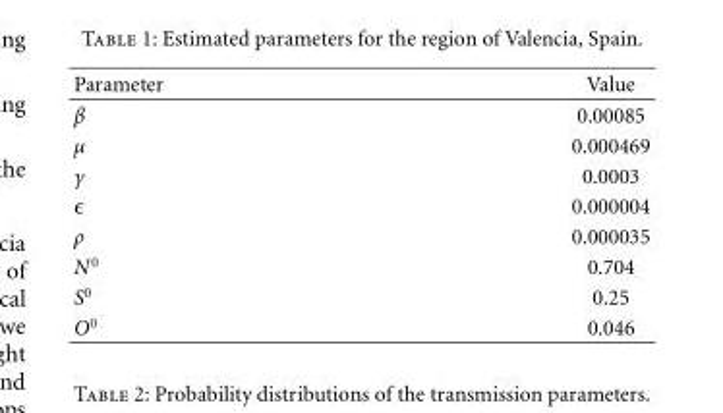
<table><thead><tr><td>Parameter</td><td>Value</td></tr></thead><tbody><tr><td>β</td><td>0.00085</td></tr><tr><td>μ</td><td>0.000469</td></tr><tr><td>γ</td><td>0.0003</td></tr><tr><td>ϵ</td><td>0.000004</td></tr><tr><td>ρ</td><td>0.000035</td></tr><tr><td>N<sup>0</sup></td><td>0.704</td></tr><tr><td>S<sup>0</sup></td><td>0.25</td></tr><tr><td>O<sup>0</sup></td><td>0.046</td></tr></tbody></table>